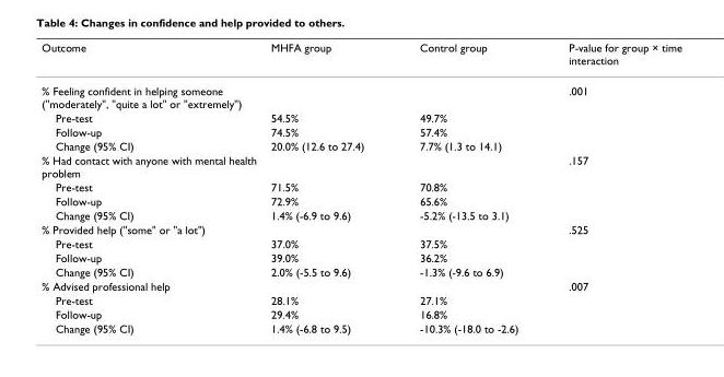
<table><thead><tr><td>Outcome</td><td>MHFA group</td><td>Control group</td><td>P-value for group × time interaction</td></tr></thead><tbody><tr><td>% Feeling confident in helping someone (&quot;moderately&quot;, &quot;quite a lot&quot; or &quot;extremely&quot;)</td><td></td><td></td><td>.001</td></tr><tr><td>Pre-test</td><td>54.5%</td><td>49.7%</td><td></td></tr><tr><td>Follow-up</td><td>74.5%</td><td>57.4%</td><td></td></tr><tr><td>Change (95% CI)</td><td>20.0% (12.6 to 27.4)</td><td>7.7% (1.3 to 14.1)</td><td></td></tr><tr><td>% Had contact with anyone with mental health problem</td><td></td><td></td><td>.157</td></tr><tr><td>Pre-test</td><td>71.5%</td><td>70.8%</td><td></td></tr><tr><td>Follow-up</td><td>72.9%</td><td>65.6%</td><td></td></tr><tr><td>Change (95% CI)</td><td>1.4% (-6.9 to 9.6)</td><td>-5.2% (-13.5 to 3.1)</td><td></td></tr><tr><td>% Provided help (&quot;some&quot; or &quot;a lot&quot;)</td><td></td><td></td><td>.525</td></tr><tr><td>Pre-test</td><td>37.0%</td><td>37.5%</td><td></td></tr><tr><td>Follow-up</td><td>39.0%</td><td>36.2%</td><td></td></tr><tr><td>Change (95% CI)</td><td>2.0% (-5.5 to 9.6)</td><td>-1.3% (-9.6 to 6.9)</td><td></td></tr><tr><td>% Advised professional help</td><td></td><td></td><td>.007</td></tr><tr><td>Pre-test</td><td>28.1%</td><td>27.1%</td><td></td></tr><tr><td>Follow-up</td><td>29.4%</td><td>16.8%</td><td></td></tr><tr><td>Change (95% CI)</td><td>1.4% (-6.8 to 9.5)</td><td>-10.3% (-18.0 to -2.6)</td><td></td></tr></tbody></table>